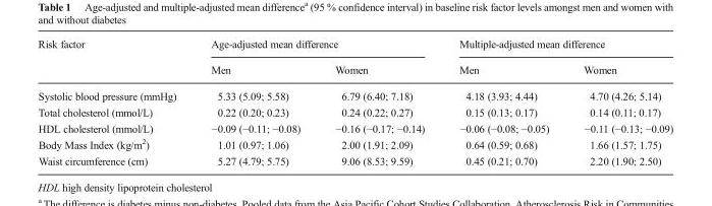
<table><thead><tr><td rowspan="2">Risk factor</td><td colspan="2">Age-adjusted mean difference</td><td colspan="2">Multiple-adjusted mean difference</td></tr><tr><td>Men</td><td>Women</td><td>Men</td><td>Women</td></tr></thead><tbody><tr><td>Systolic blood pressure (mmHg)</td><td>5.33 (5.09; 5.58)</td><td>6.79 (6.40; 7.18)</td><td>4.18 (3.93; 4.44)</td><td>4.70 (4.26; 5.14)</td></tr><tr><td>Total cholesterol (mmol/L)</td><td>0.22 (0.20; 0.23)</td><td>0.24 (0.22; 0.27)</td><td>0.15 (0.13; 0.17)</td><td>0.14 (0.11; 0.17)</td></tr><tr><td>HDL cholesterol (mmol/L)</td><td>−0.09 (−0.11; −0.08)</td><td>−0.16 (−0.17; −0.14)</td><td>−0.06 (−0.08; −0.05)</td><td>−0.11 (−0.13; −0.09)</td></tr><tr><td>Body Mass Index (kg/m<sup>2</sup>)</td><td>1.01 (0.97; 1.06)</td><td>2.00 (1.91; 2.09)</td><td>0.64 (0.59; 0.68)</td><td>1.66 (1.57; 1.75)</td></tr><tr><td>Waist circumference (cm)</td><td>5.27 (4.79; 5.75)</td><td>9.06 (8.53; 9.59)</td><td>0.45 (0.21; 0.70)</td><td>2.20 (1.90; 2.50)</td></tr></tbody></table>